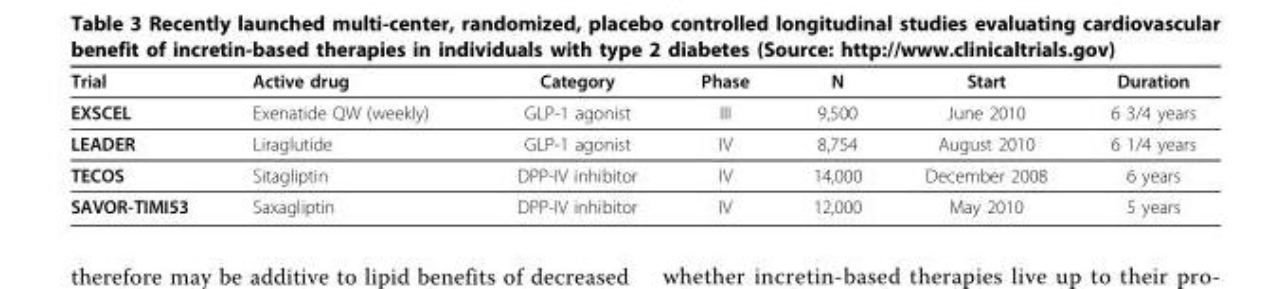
<table><thead><tr><td>Trial</td><td>Active drug</td><td>Category</td><td>Phase</td><td>N</td><td>Start</td><td>Duration</td></tr></thead><tbody><tr><td>EXSCEL</td><td>Exenatide QW (weekly)</td><td>GLP-1 agonist</td><td>III</td><td>9,500</td><td>June 2010</td><td>6 3/4 years</td></tr><tr><td>LEADER</td><td>Liraglutide</td><td>GLP-1 agonist</td><td>IV</td><td>8,754</td><td>August 2010</td><td>6 1/4 years</td></tr><tr><td>TECOS</td><td>Sitagliptin</td><td>DPP-IV inhibitor</td><td>IV</td><td>14,000</td><td>December 2008</td><td>6 years</td></tr><tr><td>SAVOR-TIMI53</td><td>Saxagliptin</td><td>DPP-IV inhibitor</td><td>IV</td><td>12,000</td><td>May 2010</td><td>5 years</td></tr></tbody></table>